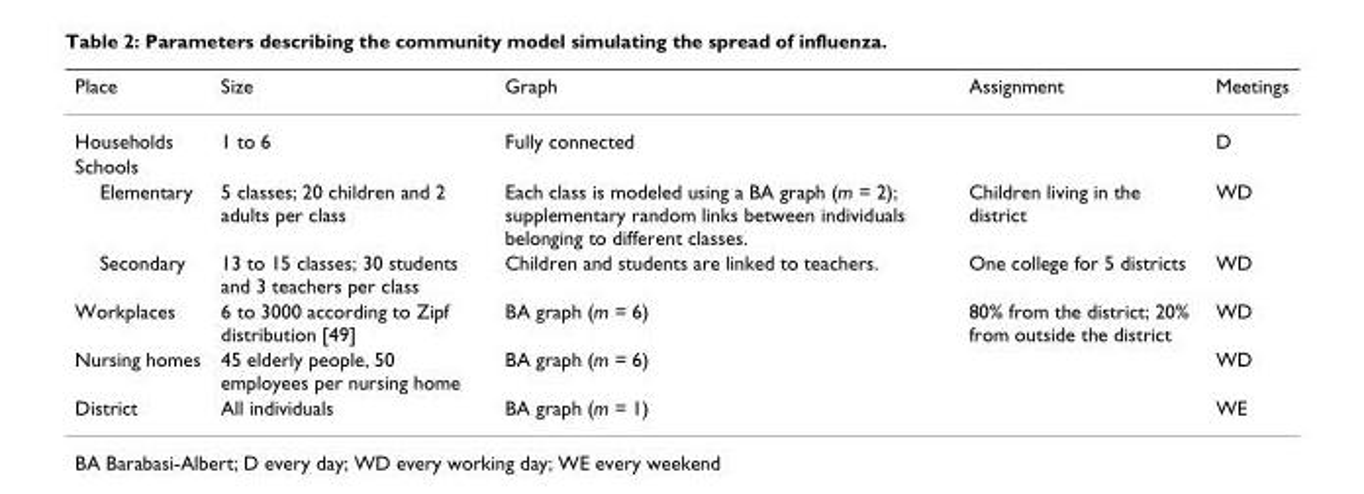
<table><thead><tr><td>Place</td><td>Size</td><td>Graph</td><td>Assignment</td><td>Meetings</td></tr></thead><tbody><tr><td>Households</td><td>1 to 6</td><td>Fully connected</td><td></td><td>D</td></tr><tr><td colspan="5">Schools</td></tr><tr><td>Elementary</td><td>5 classes; 20 children and 2 adults per class</td><td>Each class is modeled using a BA graph (m = 2); supplementary random links between individuals belonging to different classes.</td><td>Children living in the district</td><td>WD</td></tr><tr><td>Secondary</td><td>13 to 15 classes; 30 students and 3 teachers per class</td><td>Children and students are linked to teachers.</td><td>One college for 5 districts</td><td>WD</td></tr><tr><td>Workplaces</td><td>6 to 3000 according to Zipf distribution [49]</td><td>BA graph (m = 6)</td><td>80% from the district; 20% from outside the district</td><td>WD</td></tr><tr><td>Nursing homes</td><td>45 elderly people, 50 employees per nursing home</td><td>BA graph (m = 6)</td><td></td><td>WD</td></tr><tr><td>District</td><td>All individuals</td><td>BA graph (m = 1)</td><td></td><td>WE</td></tr></tbody></table>